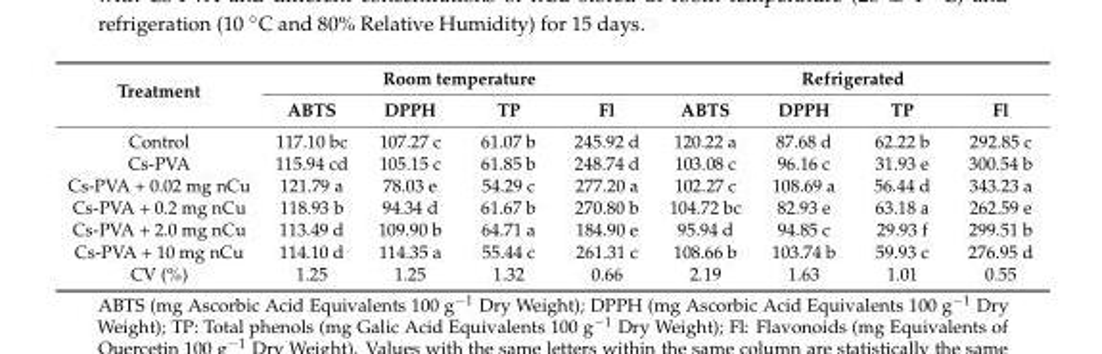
<table><thead><tr><td rowspan="2">Treatment</td><td colspan="4">Room temperature</td><td colspan="4">Refrigerated</td></tr><tr><td>ABTS</td><td>DPPH</td><td>TP</td><td>Fl</td><td>ABTS</td><td>DPPH</td><td>TP</td><td>Fl</td></tr></thead><tbody><tr><td>Control</td><td>117.10 bc</td><td>107.27 c</td><td>61.07 b</td><td>245.92 d</td><td>120.22 a</td><td>87.68 d</td><td>62.22 b</td><td>292.85 c</td></tr><tr><td>Cs-PVA</td><td>115.94 cd</td><td>105.15 c</td><td>61.85 b</td><td>248.74 d</td><td>103.08 c</td><td>96.16 c</td><td>31.93 e</td><td>300.54 b</td></tr><tr><td>Cs-PVA + 0.02 mg nCu</td><td>121.79 a</td><td>78.03 e</td><td>54.29 c</td><td>277.20 a</td><td>102.27 c</td><td>108.69 a</td><td>56.44 d</td><td>343.23 a</td></tr><tr><td>Cs-PVA + 0.2 mg nCu</td><td>118.93 b</td><td>94.34 d</td><td>61.67 b</td><td>270.80 b</td><td>104.72 bc</td><td>82.93 e</td><td>63.18 a</td><td>262.59 e</td></tr><tr><td>Cs-PVA + 2.0 mg nCu</td><td>113.49 d</td><td>109.90 b</td><td>64.71 a</td><td>184.90 e</td><td>95.94 d</td><td>94.85 c</td><td>29.93 f</td><td>299.51 b</td></tr><tr><td>Cs-PVA + 10 mg nCu</td><td>114.10 d</td><td>114.35 a</td><td>55.44 c</td><td>261.31 c</td><td>108.66 b</td><td>103.74 b</td><td>59.93 c</td><td>276.95 d</td></tr><tr><td>CV (%)</td><td>1.25</td><td>1.25</td><td>1.32</td><td>0.66</td><td>2.19</td><td>1.63</td><td>1.01</td><td>0.55</td></tr></tbody></table>